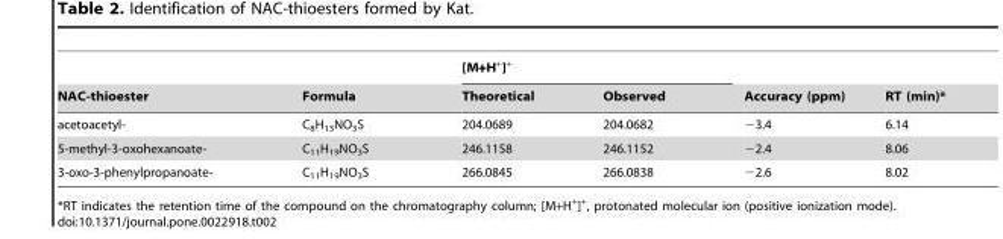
<table><thead><tr><td rowspan="2">NAC-thioester</td><td rowspan="2">Formula</td><td colspan="2">[M+H<sup>+</sup>]<sup>+</sup></td><td rowspan="2">Accuracy (ppm)</td><td rowspan="2">RT (min)*</td></tr><tr><td>Theoretical</td><td>Observed</td></tr></thead><tbody><tr><td>acetoacetyl-</td><td>C<sub>8</sub>H<sub>13</sub>NO<sub>3</sub>S</td><td>204.0689</td><td>204.0682</td><td>−3.4</td><td>6.14</td></tr><tr><td>5-methyl-3-oxohexanoate-</td><td>C<sub>11</sub>H<sub>19</sub>NO<sub>3</sub>S</td><td>246.1158</td><td>246.1152</td><td>−2.4</td><td>8.06</td></tr><tr><td>3-oxo-3-phenylpropanoate-</td><td>C<sub>11</sub>H<sub>19</sub>NO<sub>3</sub>S</td><td>266.0845</td><td>266.0838</td><td>−2.6</td><td>8.02</td></tr></tbody></table>